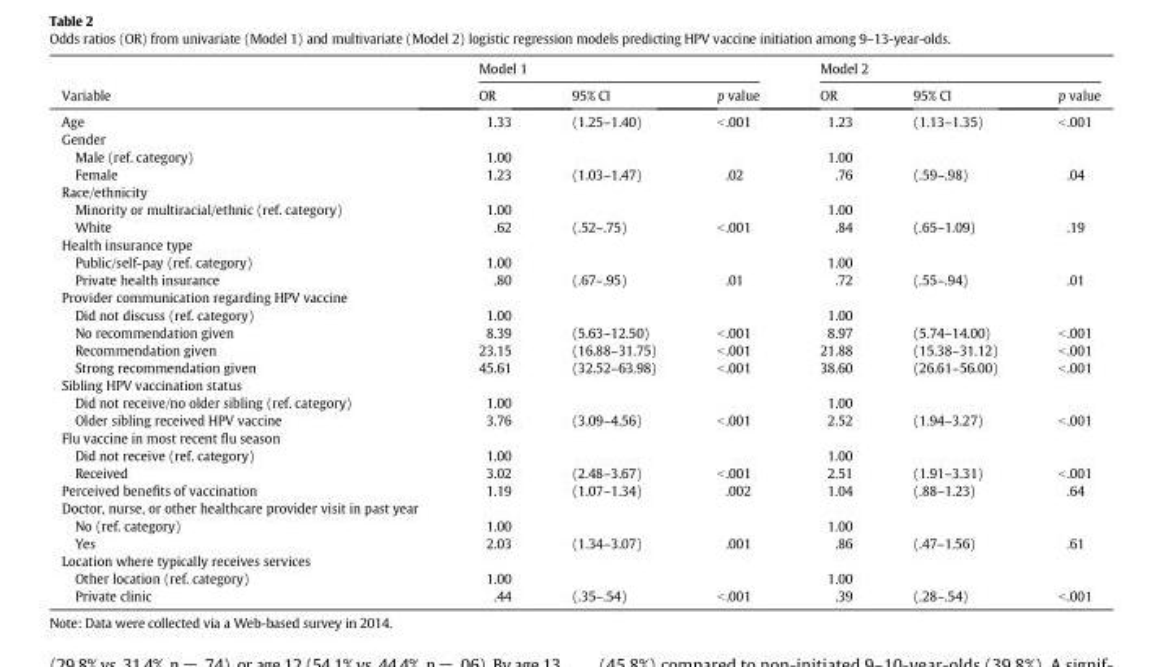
<table><thead><tr><td rowspan="2">Variable</td><td colspan="3">Model 1</td><td colspan="3">Model 2</td></tr><tr><td>OR</td><td>95% CI</td><td>p value</td><td>OR</td><td>95% CI</td><td>p value</td></tr></thead><tbody><tr><td>Age</td><td>1.33</td><td>(1.25–1.40)</td><td>&lt;.001</td><td>1.23</td><td>(1.13–1.35)</td><td>&lt;.001</td></tr><tr><td colspan="7">Gender</td></tr><tr><td>Male (ref. category)</td><td>1.00</td><td></td><td></td><td>1.00</td><td></td><td></td></tr><tr><td>Female</td><td>1.23</td><td>(1.03–1.47)</td><td>.02</td><td>.76</td><td>(.59–.98)</td><td>.04</td></tr><tr><td colspan="7">Race/ethnicity</td></tr><tr><td>Minority or multiracial/ethnic (ref. category)</td><td>1.00</td><td></td><td></td><td>1.00</td><td></td><td></td></tr><tr><td>White</td><td>.62</td><td>(.52–.75)</td><td>&lt;.001</td><td>.84</td><td>(.65–1.09)</td><td>.19</td></tr><tr><td colspan="7">Health insurance type</td></tr><tr><td>Public/self-pay (ref. category)</td><td>1.00</td><td></td><td></td><td>1.00</td><td></td><td></td></tr><tr><td>Private health insurance</td><td>.80</td><td>(.67–.95)</td><td>.01</td><td>.72</td><td>(.55–.94)</td><td>.01</td></tr><tr><td colspan="7">Provider communication regarding HPV vaccine</td></tr><tr><td>Did not discuss (ref. category)</td><td>1.00</td><td></td><td></td><td>1.00</td><td></td><td></td></tr><tr><td>No recommendation given</td><td>8.39</td><td>(5.63–12.50)</td><td>&lt;.001</td><td>8.97</td><td>(5.74–14.00)</td><td>&lt;.001</td></tr><tr><td>Recommendation given</td><td>23.15</td><td>(16.88–31.75)</td><td>&lt;.001</td><td>21.88</td><td>(15.38–31.12)</td><td>&lt;.001</td></tr><tr><td>Strong recommendation given</td><td>45.61</td><td>(32.52–63.98)</td><td>&lt;.001</td><td>38.60</td><td>(26.61–56.00)</td><td>&lt;.001</td></tr><tr><td colspan="7">Sibling HPV vaccination status</td></tr><tr><td>Did not receive/no older sibling (ref. category)</td><td>1.00</td><td></td><td></td><td>1.00</td><td></td><td></td></tr><tr><td>Older sibling received HPV vaccine</td><td>3.76</td><td>(3.09–4.56)</td><td>&lt;.001</td><td>2.52</td><td>(1.94–3.27)</td><td>&lt;.001</td></tr><tr><td colspan="7">Flu vaccine in most recent flu season</td></tr><tr><td>Did not receive (ref. category)</td><td>1.00</td><td></td><td></td><td>1.00</td><td></td><td></td></tr><tr><td>Received</td><td>3.02</td><td>(2.48–3.67)</td><td>&lt;.001</td><td>2.51</td><td>(1.91–3.31)</td><td>&lt;.001</td></tr><tr><td>Perceived benefits of vaccination</td><td>1.19</td><td>(1.07–1.34)</td><td>.002</td><td>1.04</td><td>(.88–1.23)</td><td>.64</td></tr><tr><td colspan="7">Doctor, nurse, or other healthcare provider visit in past year</td></tr><tr><td>No (ref. category)</td><td>1.00</td><td></td><td></td><td>1.00</td><td></td><td></td></tr><tr><td>Yes</td><td>2.03</td><td>(1.34–3.07)</td><td>.001</td><td>.86</td><td>(.47–1.56)</td><td>.61</td></tr><tr><td colspan="7">Location where typically receives services</td></tr><tr><td>Other location (ref. category)</td><td>1.00</td><td></td><td></td><td>1.00</td><td></td><td></td></tr><tr><td>Private clinic</td><td>.44</td><td>(.35–.54)</td><td>&lt;.001</td><td>.39</td><td>(.28–.54)</td><td>&lt;.001</td></tr></tbody></table>